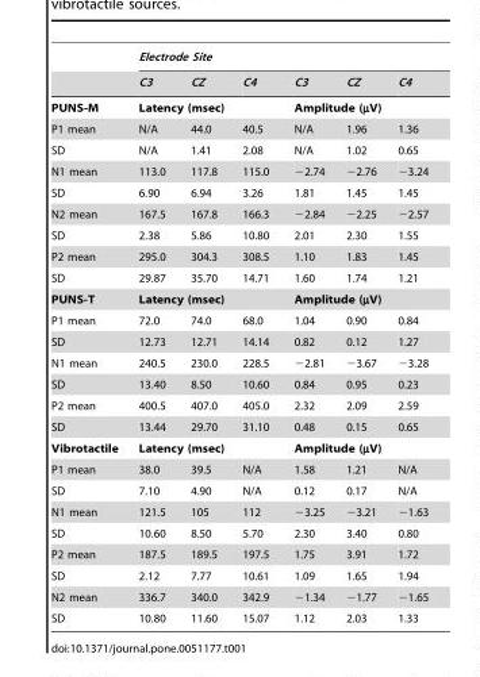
<table><thead><tr><td rowspan="2"></td><td colspan="6">Electrode Site</td></tr><tr><td>C3</td><td>CZ</td><td>C4</td><td>C3</td><td>CZ</td><td>C4</td></tr></thead><tbody><tr><td>PUNS-M</td><td colspan="3">Latency (msec)</td><td colspan="3">Amplitude (µV)</td></tr><tr><td>P1 mean</td><td>N/A</td><td>44.0</td><td>40.5</td><td>N/A</td><td>1.96</td><td>1.36</td></tr><tr><td>SD</td><td>N/A</td><td>1.41</td><td>2.08</td><td>N/A</td><td>1.02</td><td>0.65</td></tr><tr><td>N1 mean</td><td>113.0</td><td>117.8</td><td>115.0</td><td>−2.74</td><td>−2.76</td><td>−3.24</td></tr><tr><td>SD</td><td>6.90</td><td>6.94</td><td>3.26</td><td>1.81</td><td>1.45</td><td>1.45</td></tr><tr><td>N2 mean</td><td>167.5</td><td>167.8</td><td>166.3</td><td>−2.84</td><td>−2.25</td><td>−2.57</td></tr><tr><td>SD</td><td>2.38</td><td>5.86</td><td>10.80</td><td>2.01</td><td>2.30</td><td>1.55</td></tr><tr><td>P2 mean</td><td>295.0</td><td>304.3</td><td>308.5</td><td>1.10</td><td>1.83</td><td>1.45</td></tr><tr><td>SD</td><td>29.87</td><td>35.70</td><td>14.71</td><td>1.60</td><td>1.74</td><td>1.21</td></tr><tr><td>PUNS-T</td><td colspan="3">Latency (msec)</td><td colspan="3">Amplitude (µV)</td></tr><tr><td>P1 mean</td><td>72.0</td><td>74.0</td><td>68.0</td><td>1.04</td><td>0.90</td><td>0.84</td></tr><tr><td>SD</td><td>12.73</td><td>12.71</td><td>14.14</td><td>0.82</td><td>0.12</td><td>1.27</td></tr><tr><td>N1 mean</td><td>240.5</td><td>230.0</td><td>228.5</td><td>−2.81</td><td>−3.67</td><td>−3.28</td></tr><tr><td>SD</td><td>13.40</td><td>8.50</td><td>10.60</td><td>0.84</td><td>0.95</td><td>0.23</td></tr><tr><td>P2 mean</td><td>400.5</td><td>407.0</td><td>405.0</td><td>2.32</td><td>2.09</td><td>2.59</td></tr><tr><td>SD</td><td>13.44</td><td>29.70</td><td>31.10</td><td>0.48</td><td>0.15</td><td>0.65</td></tr><tr><td>Vibrotactile</td><td colspan="3">Latency (msec)</td><td colspan="3">Amplitude (µV)</td></tr><tr><td>P1 mean</td><td>38.0</td><td>39.5</td><td>N/A</td><td>1.58</td><td>1.21</td><td>N/A</td></tr><tr><td>SD</td><td>7.10</td><td>4.90</td><td>N/A</td><td>0.12</td><td>0.17</td><td>N/A</td></tr><tr><td>N1 mean</td><td>121.5</td><td>105</td><td>112</td><td>−3.25</td><td>−3.21</td><td>−1.63</td></tr><tr><td>SD</td><td>10.60</td><td>8.50</td><td>5.70</td><td>2.30</td><td>3.40</td><td>0.80</td></tr><tr><td>P2 mean</td><td>187.5</td><td>189.5</td><td>197.5</td><td>1.75</td><td>3.91</td><td>1.72</td></tr><tr><td>SD</td><td>2.12</td><td>7.77</td><td>10.61</td><td>1.09</td><td>1.65</td><td>1.94</td></tr><tr><td>N2 mean</td><td>336.7</td><td>340.0</td><td>342.9</td><td>−1.34</td><td>−1.77</td><td>−1.65</td></tr><tr><td>SD</td><td>10.80</td><td>11.60</td><td>15.07</td><td>1.12</td><td>2.03</td><td>1.33</td></tr></tbody></table>